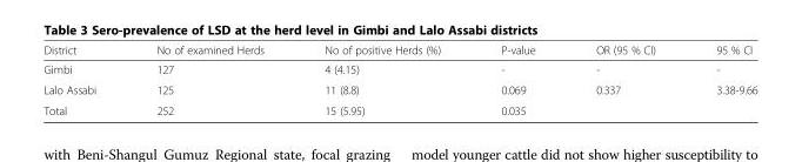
<table><thead><tr><td>District</td><td>No of examined Herds</td><td>No of positive Herds (%)</td><td>P-value</td><td>OR (95 % CI)</td><td>95 % CI</td></tr></thead><tbody><tr><td>Gimbi</td><td>127</td><td>4 (4.15)</td><td>-</td><td>-</td><td>-</td></tr><tr><td>Lalo Assabi</td><td>125</td><td>11 (8.8)</td><td>0.069</td><td>0.337</td><td>3.38-9.66</td></tr><tr><td>Total</td><td>252</td><td>15 (5.95)</td><td>0.035</td><td></td><td></td></tr></tbody></table>